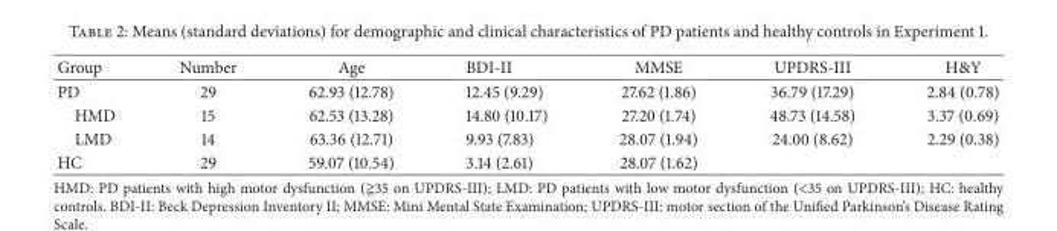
<table><thead><tr><td>Group</td><td>Number</td><td>Age</td><td>BDI-II</td><td>MMSE</td><td>UPDRS-III</td><td>H&amp;Y</td></tr></thead><tbody><tr><td>PD</td><td>29</td><td>62.93 (12.78)</td><td>12.45 (9.29)</td><td>27.62 (1.86)</td><td>36.79 (17.29)</td><td>2.84 (0.78)</td></tr><tr><td>HMD</td><td>15</td><td>62.53 (13.28)</td><td>14.80 (10.17)</td><td>27.20 (1.74)</td><td>48.73 (14.58)</td><td>3.37 (0.69)</td></tr><tr><td>LMD</td><td>14</td><td>63.36 (12.71)</td><td>9.93 (7.83)</td><td>28.07 (1.94)</td><td>24.00 (8.62)</td><td>2.29 (0.38)</td></tr><tr><td>HC</td><td>29</td><td>59.07 (10.54)</td><td>3.14 (2.61)</td><td>28.07 (1.62)</td><td></td><td></td></tr></tbody></table>